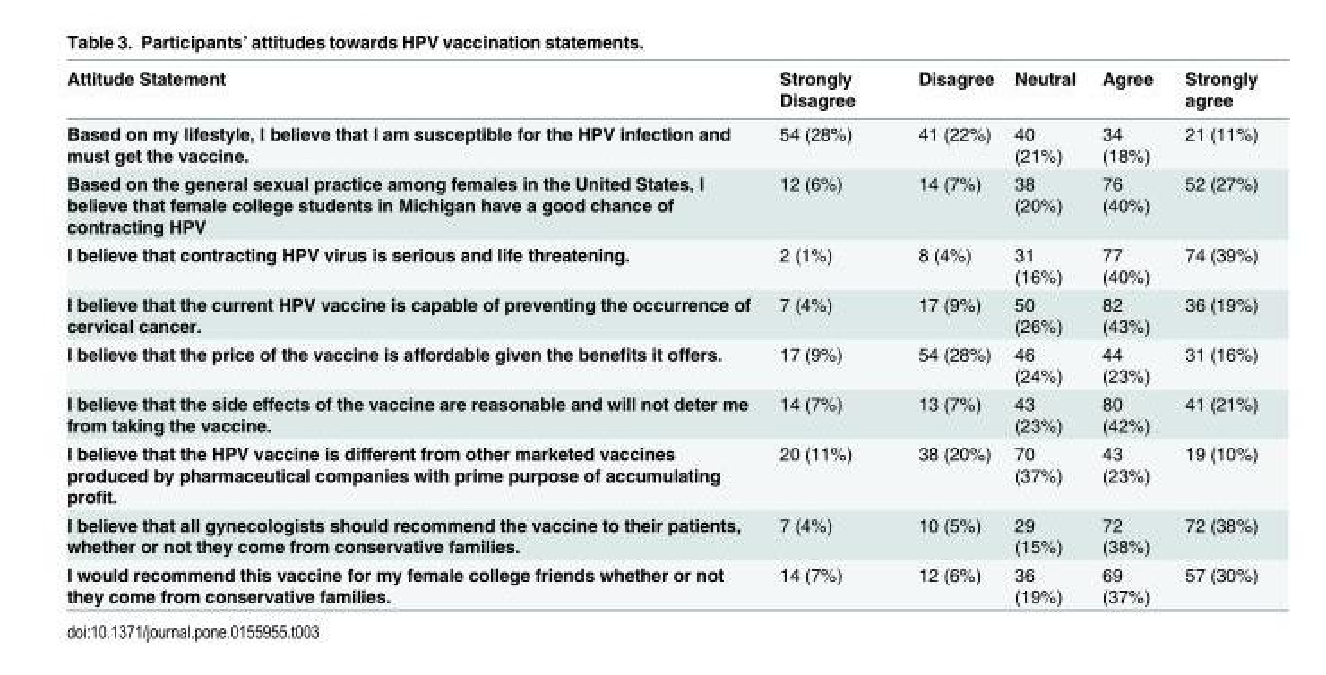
<table><thead><tr><td>Attitude Statement</td><td>Strongly Disagree</td><td>Disagree</td><td>Neutral</td><td>Agree</td><td>Strongly agree</td></tr></thead><tbody><tr><td>Based on my lifestyle, I believe that I am susceptible for the HPV infection and must get the vaccine.</td><td>54 (28%)</td><td>41 (22%)</td><td>40 (21%)</td><td>34 (18%)</td><td>21 (11%)</td></tr><tr><td>Based on the general sexual practice among females in the United States, I believe that female college students in Michigan have a good chance of contracting HPV</td><td>12 (6%)</td><td>14 (7%)</td><td>38 (20%)</td><td>76 (40%)</td><td>52 (27%)</td></tr><tr><td>I believe that contracting HPV virus is serious and life threatening.</td><td>2 (1%)</td><td>8 (4%)</td><td>31 (16%)</td><td>77 (40%)</td><td>74 (39%)</td></tr><tr><td>I believe that the current HPV vaccine is capable of preventing the occurrence of cervical cancer.</td><td>7 (4%)</td><td>17 (9%)</td><td>50 (26%)</td><td>82 (43%)</td><td>36 (19%)</td></tr><tr><td>I believe that the price of the vaccine is affordable given the benefits it offers.</td><td>17 (9%)</td><td>54 (28%)</td><td>46 (24%)</td><td>44 (23%)</td><td>31 (16%)</td></tr><tr><td>I believe that the side effects of the vaccine are reasonable and will not deter me from taking the vaccine.</td><td>14 (7%)</td><td>13 (7%)</td><td>43 (23%)</td><td>80 (42%)</td><td>41 (21%)</td></tr><tr><td>I believe that the HPV vaccine is different from other marketed vaccines produced by pharmaceutical companies with prime purpose of accumulating profit.</td><td>20 (11%)</td><td>38 (20%)</td><td>70 (37%)</td><td>43 (23%)</td><td>19 (10%)</td></tr><tr><td>I believe that all gynecologists should recommend the vaccine to their patients, whether or not they come from conservative families.</td><td>7 (4%)</td><td>10 (5%)</td><td>29 (15%)</td><td>72 (38%)</td><td>72 (38%)</td></tr><tr><td>I would recommend this vaccine for my female college friends whether or not they come from conservative families.</td><td>14 (7%)</td><td>12 (6%)</td><td>36 (19%)</td><td>69 (37%)</td><td>57 (30%)</td></tr></tbody></table>